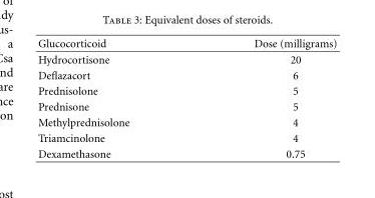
<table><thead><tr><td>Glucocorticoid</td><td>Dose (milligrams)</td></tr></thead><tbody><tr><td>Hydrocortisone</td><td>20</td></tr><tr><td>Deflazacort</td><td>6</td></tr><tr><td>Prednisolone</td><td>5</td></tr><tr><td>Prednisone</td><td>5</td></tr><tr><td>Methylprednisolone</td><td>4</td></tr><tr><td>Triamcinolone</td><td>4</td></tr><tr><td>Dexamethasone</td><td>0.75</td></tr></tbody></table>